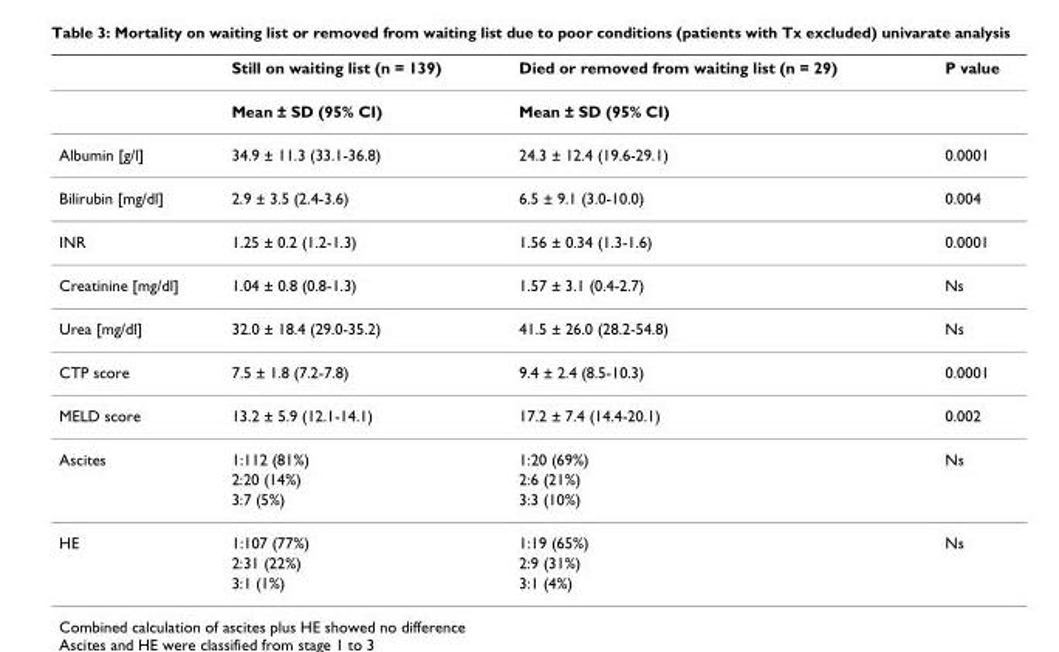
<table><thead><tr><td></td><td>Still on waiting list (n = 139)</td><td>Died or removed from waiting list (n = 29)</td><td>P value</td></tr></thead><tbody><tr><td></td><td>Mean ± SD (95% CI)</td><td>Mean ± SD (95% CI)</td><td></td></tr><tr><td>Albumin [g/l]</td><td>34.9 ± 11.3 (33.1-36.8)</td><td>24.3 ± 12.4 (19.6-29.1)</td><td>0.0001</td></tr><tr><td>Bilirubin [mg/dl]</td><td>2.9 ± 3.5 (2.4-3.6)</td><td>6.5 ± 9.1 (3.0-10.0)</td><td>0.004</td></tr><tr><td>INR</td><td>1.25 ± 0.2 (1.2-1.3)</td><td>1.56 ± 0.34 (1.3-1.6)</td><td>0.0001</td></tr><tr><td>Creatinine [mg/dl]</td><td>1.04 ± 0.8 (0.8-1.3)</td><td>1.57 ± 3.1 (0.4-2.7)</td><td>Ns</td></tr><tr><td>Urea [mg/dl]</td><td>32.0 ± 18.4 (29.0-35.2)</td><td>41.5 ± 26.0 (28.2-54.8)</td><td>Ns</td></tr><tr><td>CTP score</td><td>7.5 ± 1.8 (7.2-7.8)</td><td>9.4 ± 2.4 (8.5-10.3)</td><td>0.0001</td></tr><tr><td>MELD score</td><td>13.2 ± 5.9 (12.1-14.1)</td><td>17.2 ± 7.4 (14.4-20.1)</td><td>0.002</td></tr><tr><td rowspan="3">Ascites</td><td>1:112 (81%)</td><td>1:20 (69%)</td><td>Ns</td></tr><tr><td>2:20 (14%)</td><td>2:6 (21%)</td><td></td></tr><tr><td>3:7 (5%)</td><td>3:3 (10%)</td><td></td></tr><tr><td rowspan="3">HE</td><td>1:107 (77%)</td><td>1:19 (65%)</td><td>Ns</td></tr><tr><td>2:31 (22%)</td><td>2:9 (31%)</td><td></td></tr><tr><td>3:1 (1%)</td><td>3:1 (4%)</td><td></td></tr></tbody></table>